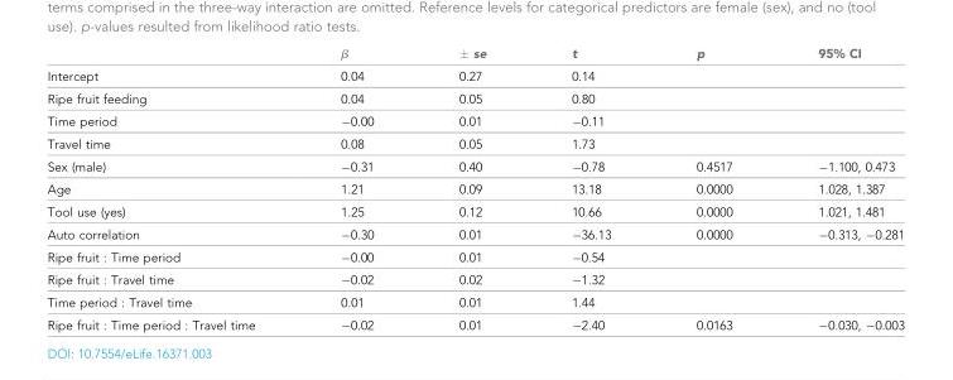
<table><thead><tr><td></td><td>β</td><td>± se</td><td>t</td><td>p</td><td>95% CI</td></tr></thead><tbody><tr><td>Intercept</td><td>0.04</td><td>0.27</td><td>0.14</td><td></td><td></td></tr><tr><td>Ripe fruit feeding</td><td>0.04</td><td>0.05</td><td>0.80</td><td></td><td></td></tr><tr><td>Time period</td><td>−0.00</td><td>0.01</td><td>−0.11</td><td></td><td></td></tr><tr><td>Travel time</td><td>0.08</td><td>0.05</td><td>1.73</td><td></td><td></td></tr><tr><td>Sex (male)</td><td>−0.31</td><td>0.40</td><td>−0.78</td><td>0.4517</td><td>−1.100, 0.473</td></tr><tr><td>Age</td><td>1.21</td><td>0.09</td><td>13.18</td><td>0.0000</td><td>1.028, 1.387</td></tr><tr><td>Tool use (yes)</td><td>1.25</td><td>0.12</td><td>10.66</td><td>0.0000</td><td>1.021, 1.481</td></tr><tr><td>Auto correlation</td><td>−0.30</td><td>0.01</td><td>−36.13</td><td>0.0000</td><td>−0.313, −0.281</td></tr><tr><td>Ripe fruit : Time period</td><td>−0.00</td><td>0.01</td><td>−0.54</td><td></td><td></td></tr><tr><td>Ripe fruit : Travel time</td><td>−0.02</td><td>0.02</td><td>−1.32</td><td></td><td></td></tr><tr><td>Time period : Travel time</td><td>0.01</td><td>0.01</td><td>1.44</td><td></td><td></td></tr><tr><td>Ripe fruit : Time period : Travel time</td><td>−0.02</td><td>0.01</td><td>−2.40</td><td>0.0163</td><td>−0.030, −0.003</td></tr></tbody></table>